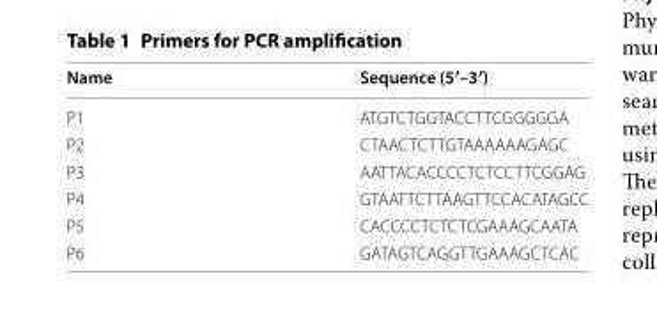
<table><thead><tr><td>Name</td><td>Sequence (5′–3′)</td></tr></thead><tbody><tr><td>P1</td><td>ATGTCTGGTACCTTCGGGGGA</td></tr><tr><td>P2</td><td>CTAACTCTTGTAAAAAAGAGC</td></tr><tr><td>P3</td><td>AATTACACCCCTCTCCTTCGGAG</td></tr><tr><td>P4</td><td>GTAATTCTTAAGTTCCACATAGCC</td></tr><tr><td>P5</td><td>CACCCCTCTCTCGAAAGCAATA</td></tr><tr><td>P6</td><td>GATAGTCAGGTTGAAAGCTCAC</td></tr></tbody></table>